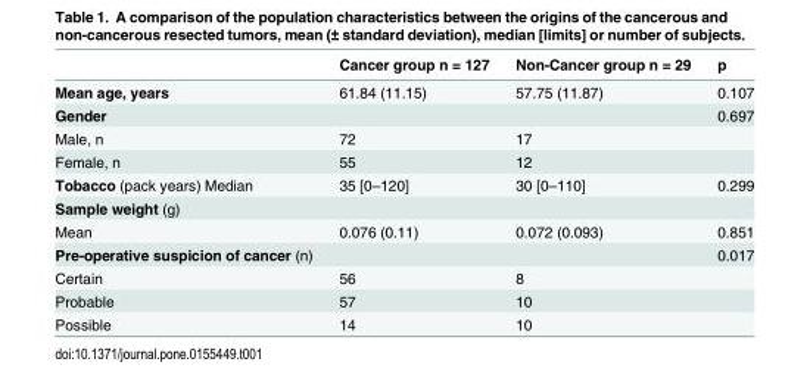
<table><thead><tr><td></td><td>Cancer group n = 127</td><td>Non-Cancer group n = 29</td><td>p</td></tr></thead><tbody><tr><td>Mean age, years</td><td>61.84 (11.15)</td><td>57.75 (11.87)</td><td>0.107</td></tr><tr><td>Gender</td><td></td><td></td><td>0.697</td></tr><tr><td>Male, n</td><td>72</td><td>17</td><td></td></tr><tr><td>Female, n</td><td>55</td><td>12</td><td></td></tr><tr><td>Tobacco (pack years) Median</td><td>35 [0–120]</td><td>30 [0–110]</td><td>0.299</td></tr><tr><td colspan="4">Sample weight (g)</td></tr><tr><td>Mean</td><td>0.076 (0.11)</td><td>0.072 (0.093)</td><td>0.851</td></tr><tr><td>Pre-operative suspicion of cancer (n)</td><td></td><td></td><td>0.017</td></tr><tr><td>Certain</td><td>56</td><td>8</td><td></td></tr><tr><td>Probable</td><td>57</td><td>10</td><td></td></tr><tr><td>Possible</td><td>14</td><td>10</td><td></td></tr></tbody></table>